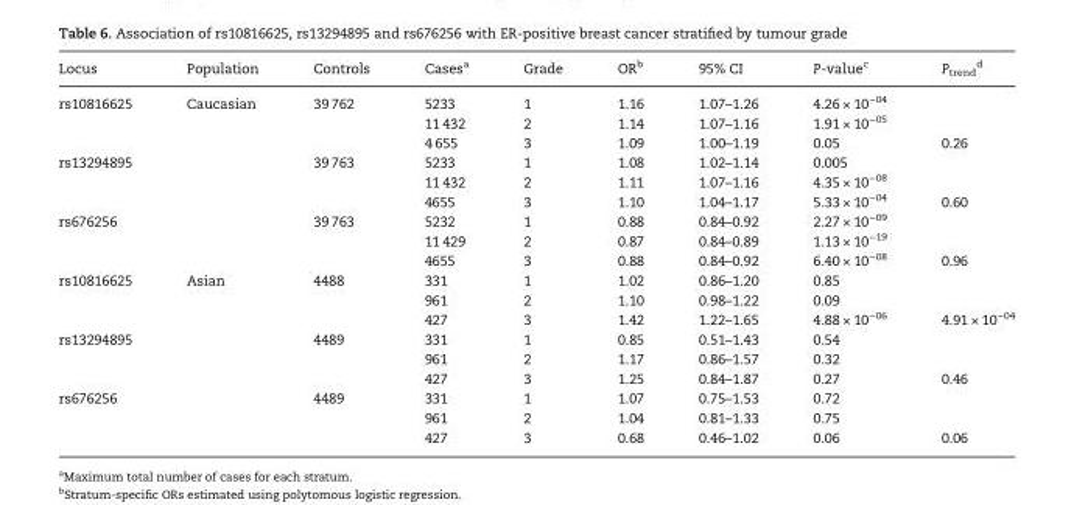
<table><thead><tr><td>Locus</td><td>Population</td><td>Controls</td><td>Cases<sup>a</sup></td><td>Grade</td><td>OR<sup>b</sup></td><td>95% CI</td><td>P-value<sup>c</sup></td><td>P<sub>trend</sub> <sup>d</sup></td></tr></thead><tbody><tr><td rowspan="3">rs10816625</td><td>Caucasian</td><td>39 762</td><td>5233</td><td>1</td><td>1.16</td><td>1.07–1.26</td><td>4.26 × 10<sup>−04</sup></td><td></td></tr><tr><td></td><td></td><td>11 432</td><td>2</td><td>1.14</td><td>1.07–1.16</td><td>1.91 × 10<sup>−05</sup></td><td></td></tr><tr><td></td><td></td><td>4 655</td><td>3</td><td>1.09</td><td>1.00–1.19</td><td>0.05</td><td>0.26</td></tr><tr><td rowspan="3">rs13294895</td><td></td><td>39 763</td><td>5233</td><td>1</td><td>1.08</td><td>1.02–1.14</td><td>0.005</td><td></td></tr><tr><td></td><td></td><td>11 432</td><td>2</td><td>1.11</td><td>1.07–1.16</td><td>4.35 × 10<sup>−08</sup></td><td></td></tr><tr><td></td><td></td><td>4655</td><td>3</td><td>1.10</td><td>1.04–1.17</td><td>5.33 × 10<sup>−04</sup></td><td>0.60</td></tr><tr><td rowspan="3">rs676256</td><td></td><td>39 763</td><td>5232</td><td>1</td><td>0.88</td><td>0.84–0.92</td><td>2.27 × 10<sup>−09</sup></td><td></td></tr><tr><td></td><td></td><td>11 429</td><td>2</td><td>0.87</td><td>0.84–0.89</td><td>1.13 × 10<sup>−19</sup></td><td></td></tr><tr><td></td><td></td><td>4655</td><td>3</td><td>0.88</td><td>0.84–0.92</td><td>6.40 × 10<sup>−08</sup></td><td>0.96</td></tr><tr><td rowspan="3">rs10816625</td><td>Asian</td><td>4488</td><td>331</td><td>1</td><td>1.02</td><td>0.86–1.20</td><td>0.85</td><td></td></tr><tr><td></td><td></td><td>961</td><td>2</td><td>1.10</td><td>0.98–1.22</td><td>0.09</td><td></td></tr><tr><td></td><td></td><td>427</td><td>3</td><td>1.42</td><td>1.22–1.65</td><td>4.88 × 10<sup>−06</sup></td><td>4.91 × 10<sup>−04</sup></td></tr><tr><td rowspan="3">rs13294895</td><td></td><td>4489</td><td>331</td><td>1</td><td>0.85</td><td>0.51–1.43</td><td>0.54</td><td></td></tr><tr><td></td><td></td><td>961</td><td>2</td><td>1.17</td><td>0.86–1.57</td><td>0.32</td><td></td></tr><tr><td></td><td></td><td>427</td><td>3</td><td>1.25</td><td>0.84–1.87</td><td>0.27</td><td>0.46</td></tr><tr><td rowspan="3">rs676256</td><td></td><td>4489</td><td>331</td><td>1</td><td>1.07</td><td>0.75–1.53</td><td>0.72</td><td></td></tr><tr><td></td><td></td><td>961</td><td>2</td><td>1.04</td><td>0.81–1.33</td><td>0.75</td><td></td></tr><tr><td></td><td></td><td>427</td><td>3</td><td>0.68</td><td>0.46–1.02</td><td>0.06</td><td>0.06</td></tr></tbody></table>